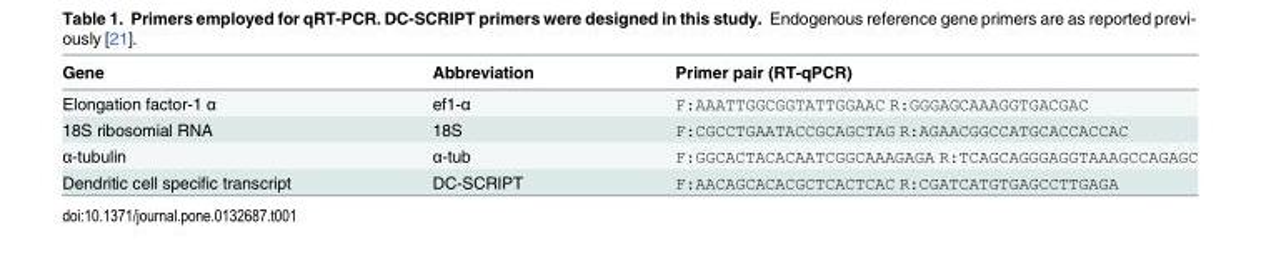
<table><thead><tr><td>Gene</td><td>Abbreviation</td><td>Primer pair (RT-qPCR)</td></tr></thead><tbody><tr><td>Elongation factor-1 α</td><td>ef1-α</td><td>F:AAATTGGCGGTATTGGAAC R:GGGAGCAAAGGTGACGAC</td></tr><tr><td>18S ribosomial RNA</td><td>18S</td><td>F:CGCCTGAATACCGCAGCTAG R:AGAACGGCCATGCACCACCAC</td></tr><tr><td>α-tubulin</td><td>α-tub</td><td>F:GGCACTACACAATCGGCAAAGAGA R:TCAGCAGGGAGGTAAAGCCAGAGC</td></tr><tr><td>Dendritic cell specific transcript</td><td>DC-SCRIPT</td><td>F:AACAGCACACGCTCACTCAC R:CGATCATGTGAGCCTTGAGA</td></tr></tbody></table>